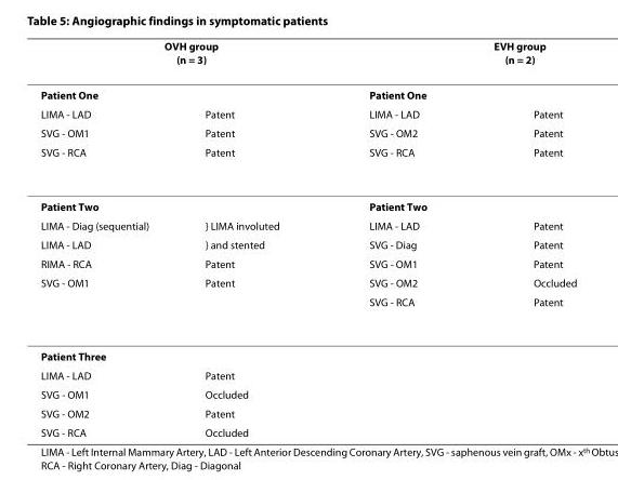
<table><thead><tr><td rowspan="2" colspan="2">OVH group (n = 3) Patient One</td><td rowspan="2" colspan="2">EVH group (n = 2) Patient One</td></tr><tr></tr><tr><td>LIMA - LAD</td><td>Patent</td><td>LIMA - LAD</td><td>Patent</td></tr></thead><tbody><tr><td>SVG - OM1</td><td>Patent</td><td>SVG - OM2</td><td>Patent</td></tr><tr><td>SVG - RCA</td><td>Patent</td><td>SVG - RCA</td><td>Patent</td></tr><tr><td colspan="2">Patient Two</td><td colspan="2">Patient Two</td></tr><tr><td>LIMA - Diag (sequential)</td><td>} LIMA involuted</td><td>LIMA - LAD</td><td>Patent</td></tr><tr><td>LIMA - LAD</td><td>} and stented</td><td>SVG - Diag</td><td>Patent</td></tr><tr><td>RIMA - RCA</td><td>Patent</td><td>SVG - OM1</td><td>Patent</td></tr><tr><td rowspan="2">SVG - OM1</td><td>Patent</td><td>SVG - OM2</td><td>Occluded</td></tr><tr><td></td><td>SVG - RCA</td><td>Patent</td></tr><tr><td colspan="4">Patient Three</td></tr><tr><td>LIMA - LAD</td><td>Patent</td><td></td><td></td></tr><tr><td>SVG - OM1</td><td>Occluded</td><td></td><td></td></tr><tr><td>SVG - OM2</td><td>Patent</td><td></td><td></td></tr><tr><td>SVG - RCA</td><td>Occluded</td><td></td><td></td></tr></tbody></table>